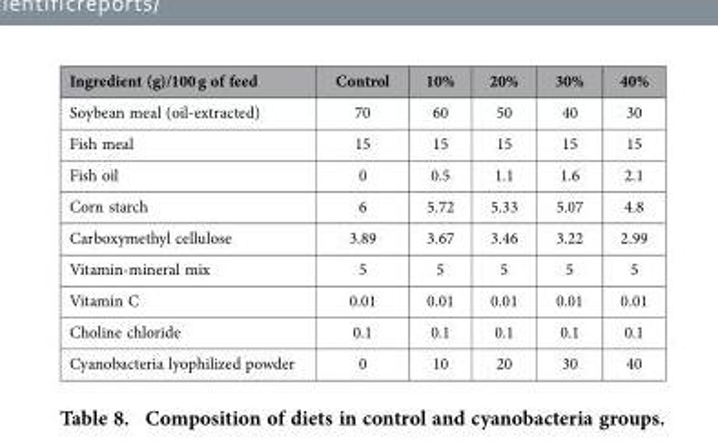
<table><thead><tr><td>Ingredient (g)/100 g of feed</td><td>Control</td><td>10%</td><td>20%</td><td>30%</td><td>40%</td></tr></thead><tbody><tr><td>Soybean meal (oil-extracted)</td><td>70</td><td>60</td><td>50</td><td>40</td><td>30</td></tr><tr><td>Fish meal</td><td>15</td><td>15</td><td>15</td><td>15</td><td>15</td></tr><tr><td>Fish oil</td><td>0</td><td>0.5</td><td>1.1</td><td>1.6</td><td>2.1</td></tr><tr><td>Corn starch</td><td>6</td><td>5.72</td><td>5.33</td><td>5.07</td><td>4.8</td></tr><tr><td>Carboxymethyl cellulose</td><td>3.89</td><td>3.67</td><td>3.46</td><td>3.22</td><td>2.99</td></tr><tr><td>Vitamin-mineral mix</td><td>5</td><td>5</td><td>5</td><td>5</td><td>5</td></tr><tr><td>Vitamin C</td><td>0.01</td><td>0.01</td><td>0.01</td><td>0.01</td><td>0.01</td></tr><tr><td>Choline chloride</td><td>0.1</td><td>0.1</td><td>0.1</td><td>0.1</td><td>0.1</td></tr><tr><td>Cyanobacteria lyophilized powder</td><td>0</td><td>10</td><td>20</td><td>30</td><td>40</td></tr></tbody></table>